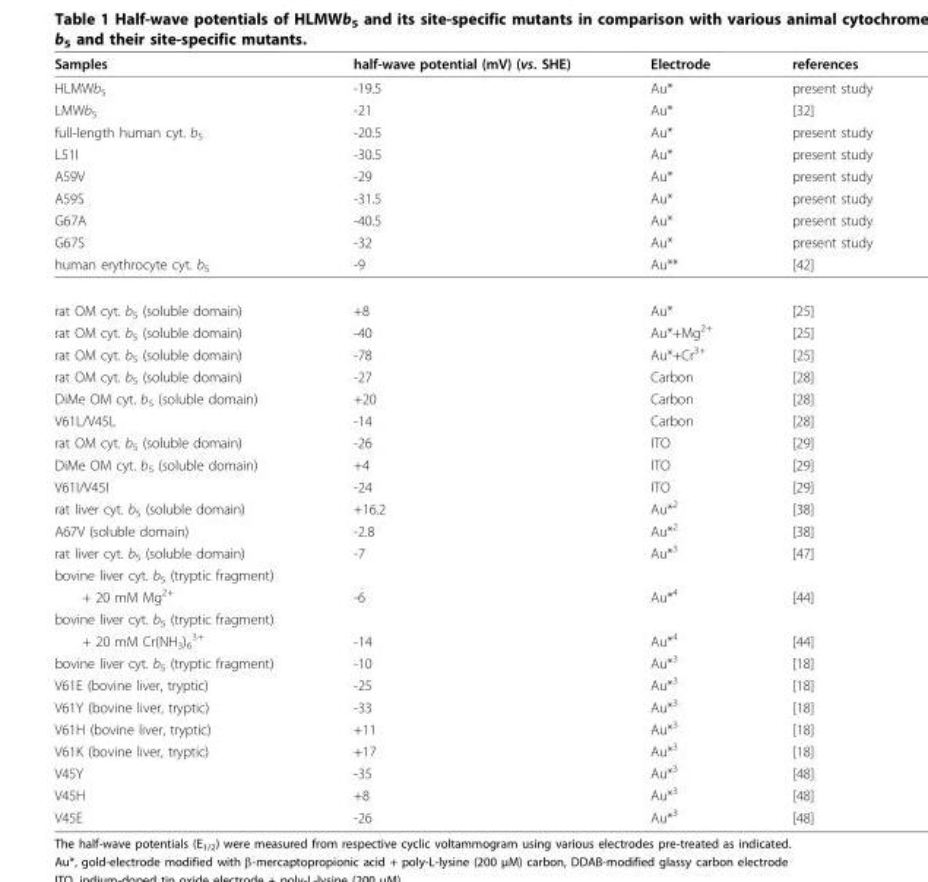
<table><thead><tr><td>Samples</td><td>half-wave potential (mV) (vs. SHE)</td><td>Electrode</td><td>references</td></tr></thead><tbody><tr><td>HLMWb<sub>5</sub></td><td>-19.5</td><td>Au*</td><td>present study</td></tr><tr><td>LMWb<sub>5</sub></td><td>-21</td><td>Au*</td><td>[32]</td></tr><tr><td>full-length human cyt. b<sub>5</sub></td><td>-20.5</td><td>Au*</td><td>present study</td></tr><tr><td>L51I</td><td>-30.5</td><td>Au*</td><td>present study</td></tr><tr><td>A59V</td><td>-29</td><td>Au*</td><td>present study</td></tr><tr><td>A59S</td><td>-31.5</td><td>Au*</td><td>present study</td></tr><tr><td>G67A</td><td>-40.5</td><td>Au*</td><td>present study</td></tr><tr><td>G67S</td><td>-32</td><td>Au*</td><td>present study</td></tr><tr><td>human erythrocyte cyt. b<sub>5</sub></td><td>-9</td><td>Au**</td><td>[42]</td></tr><tr><td>rat OM cyt. b<sub>5</sub> (soluble domain)</td><td>+8</td><td>Au*</td><td>[25]</td></tr><tr><td>rat OM cyt. b<sub>5</sub> (soluble domain)</td><td>-40</td><td>Au*+Mg<sup>2+</sup></td><td>[25]</td></tr><tr><td>rat OM cyt. b<sub>5</sub> (soluble domain)</td><td>-78</td><td>Au*+Cr<sup>3+</sup></td><td>[25]</td></tr><tr><td>rat OM cyt. b<sub>5</sub> (soluble domain)</td><td>-27</td><td>Carbon</td><td>[28]</td></tr><tr><td>DiMe OM cyt. b<sub>5</sub> (soluble domain)</td><td>+20</td><td>Carbon</td><td>[28]</td></tr><tr><td>V61L/V45L</td><td>-14</td><td>Carbon</td><td>[28]</td></tr><tr><td>rat OM cyt. b<sub>5</sub> (soluble domain)</td><td>-26</td><td>ITO</td><td>[29]</td></tr><tr><td>DiMe OM cyt. b<sub>5</sub> (soluble domain)</td><td>+4</td><td>ITO</td><td>[29]</td></tr><tr><td>V61I/V45I</td><td>-24</td><td>ITO</td><td>[29]</td></tr><tr><td>rat liver cyt. b<sub>5</sub> (soluble domain)</td><td>+16.2</td><td>Au*<sup>2</sup></td><td>[38]</td></tr><tr><td>A67V (soluble domain)</td><td>-2.8</td><td>Au*<sup>2</sup></td><td>[38]</td></tr><tr><td>rat liver cyt. b<sub>5</sub> (soluble domain)</td><td>-7</td><td>Au*<sup>3</sup></td><td>[47]</td></tr><tr><td colspan="4">bovine liver cyt. b<sub>5</sub> (tryptic fragment)</td></tr><tr><td>+ 20 mM Mg<sup>2+</sup></td><td>-6</td><td>Au*<sup>4</sup></td><td>[44]</td></tr><tr><td colspan="4">bovine liver cyt. b<sub>5</sub> (tryptic fragment)</td></tr><tr><td>+ 20 mM Cr(NH<sub>3</sub>)<sub>6</sub> <sup>3+</sup></td><td>-14</td><td>Au*<sup>4</sup></td><td>[44]</td></tr><tr><td>bovine liver cyt. b<sub>5</sub> (tryptic fragment)</td><td>-10</td><td>Au*<sup>3</sup></td><td>[18]</td></tr><tr><td>V61E (bovine liver, tryptic)</td><td>-25</td><td>Au*<sup>3</sup></td><td>[18]</td></tr><tr><td>V61Y (bovine liver, tryptic)</td><td>-33</td><td>Au*<sup>3</sup></td><td>[18]</td></tr><tr><td>V61H (bovine liver, tryptic)</td><td>+11</td><td>Au*<sup>3</sup></td><td>[18]</td></tr><tr><td>V61K (bovine liver, tryptic)</td><td>+17</td><td>Au*<sup>3</sup></td><td>[18]</td></tr><tr><td>V45Y</td><td>-35</td><td>Au*<sup>3</sup></td><td>[48]</td></tr><tr><td>V45H</td><td>+8</td><td>Au*<sup>3</sup></td><td>[48]</td></tr><tr><td>V45E</td><td>-26</td><td>Au*<sup>3</sup></td><td>[48]</td></tr></tbody></table>